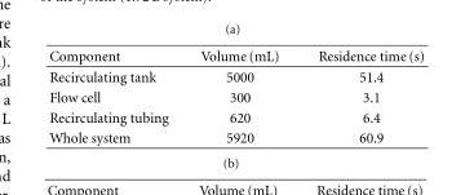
<table><thead><tr><td>Component</td><td>Volume (mL)</td><td>Residence time (s)</td></tr></thead><tbody><tr><td>Recirculating tank</td><td>5000</td><td>51.4</td></tr><tr><td>Flow cell</td><td>300</td><td>3.1</td></tr><tr><td>Recirculating tubing</td><td>620</td><td>6.4</td></tr><tr><td>Whole system</td><td>5920</td><td>60.9</td></tr></tbody></table>